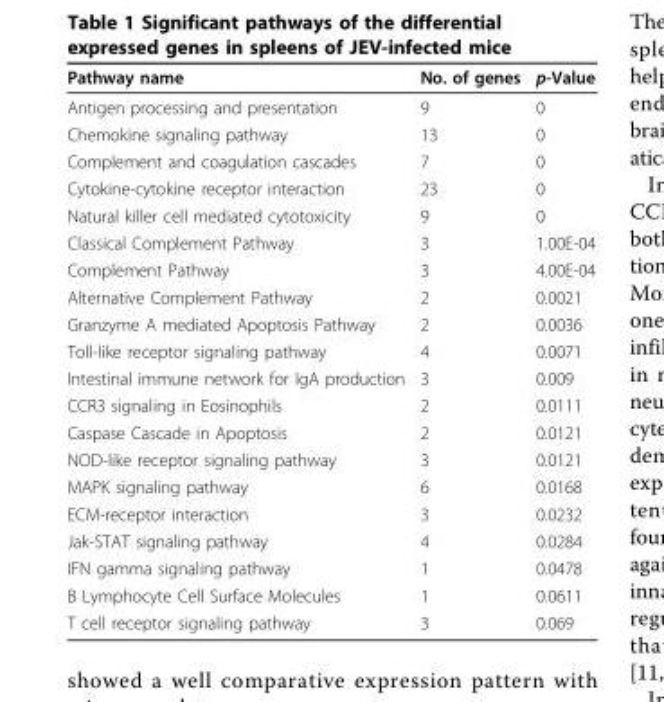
<table><thead><tr><td>Pathway name</td><td>No. of genes</td><td>p-Value</td></tr></thead><tbody><tr><td>Antigen processing and presentation</td><td>9</td><td>0</td></tr><tr><td>Chemokine signaling pathway</td><td>13</td><td>0</td></tr><tr><td>Complement and coagulation cascades</td><td>7</td><td>0</td></tr><tr><td>Cytokine-cytokine receptor interaction</td><td>23</td><td>0</td></tr><tr><td>Natural killer cell mediated cytotoxicity</td><td>9</td><td>0</td></tr><tr><td>Classical Complement Pathway</td><td>3</td><td>1.00E-04</td></tr><tr><td>Complement Pathway</td><td>3</td><td>4.00E-04</td></tr><tr><td>Alternative Complement Pathway</td><td>2</td><td>0.0021</td></tr><tr><td>Granzyme A mediated Apoptosis Pathway</td><td>2</td><td>0.0036</td></tr><tr><td>Toll-like receptor signaling pathway</td><td>4</td><td>0.0071</td></tr><tr><td>Intestinal immune network for IgA production</td><td>3</td><td>0.009</td></tr><tr><td>CCR3 signaling in Eosinophils</td><td>2</td><td>0.0111</td></tr><tr><td>Caspase Cascade in Apoptosis</td><td>2</td><td>0.0121</td></tr><tr><td>NOD-like receptor signaling pathway</td><td>3</td><td>0.0121</td></tr><tr><td>MAPK signaling pathway</td><td>6</td><td>0.0168</td></tr><tr><td>ECM-receptor interaction</td><td>3</td><td>0.0232</td></tr><tr><td>Jak-STAT signaling pathway</td><td>4</td><td>0.0284</td></tr><tr><td>IFN gamma signaling pathway</td><td>1</td><td>0.0478</td></tr><tr><td>B Lymphocyte Cell Surface Molecules</td><td>1</td><td>0.0611</td></tr><tr><td>T cell receptor signaling pathway</td><td>3</td><td>0.069</td></tr></tbody></table>